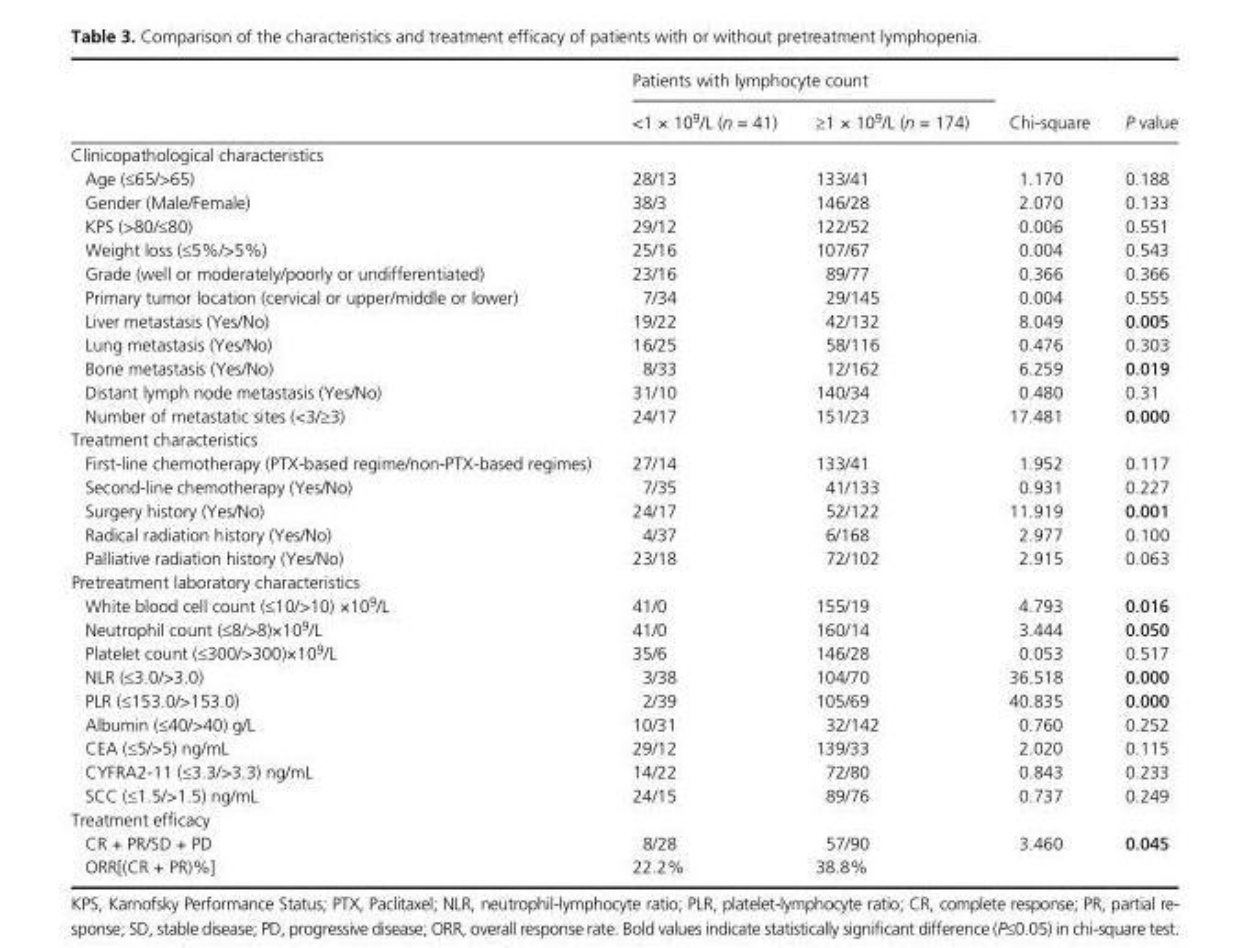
<table><thead><tr><td rowspan="2"></td><td colspan="2">Patients with lymphocyte count</td><td rowspan="2">Chi- square</td><td rowspan="2">P value</td></tr><tr><td>&lt;1 × 10<sup>9</sup>/L (n = 41)</td><td>≥1 × 10<sup>9</sup>/L (n = 174)</td></tr></thead><tbody><tr><td colspan="5">Clinicopathological characteristics</td></tr><tr><td>Age (≤65/&gt;65)</td><td>28/13</td><td>133/41</td><td>1.170</td><td>0.188</td></tr><tr><td>Gender (Male/Female)</td><td>38/3</td><td>146/28</td><td>2.070</td><td>0.133</td></tr><tr><td>KPS (&gt;80/≤80)</td><td>29/12</td><td>122/52</td><td>0.006</td><td>0.551</td></tr><tr><td>Weight loss (≤5%/&gt;5%)</td><td>25/16</td><td>107/67</td><td>0.004</td><td>0.543</td></tr><tr><td>Grade (well or moderately/poorly or undifferentiated)</td><td>23/16</td><td>89/77</td><td>0.366</td><td>0.366</td></tr><tr><td>Primary tumor location (cervical or upper/middle or lower)</td><td>7/34</td><td>29/145</td><td>0.004</td><td>0.555</td></tr><tr><td>Liver metastasis (Yes/No)</td><td>19/22</td><td>42/132</td><td>8.049</td><td>0.005</td></tr><tr><td>Lung metastasis (Yes/No)</td><td>16/25</td><td>58/116</td><td>0.476</td><td>0.303</td></tr><tr><td>Bone metastasis (Yes/No)</td><td>8/33</td><td>12/162</td><td>6.259</td><td>0.019</td></tr><tr><td>Distant lymph node metastasis (Yes/No)</td><td>31/10</td><td>140/34</td><td>0.480</td><td>0.31</td></tr><tr><td>Number of metastatic sites (&lt;3/≥3)</td><td>24/17</td><td>151/23</td><td>17.481</td><td>0.000</td></tr><tr><td colspan="5">Treatment characteristics</td></tr><tr><td>First- line chemotherapy (PTX- based regime/non- PTX- based regimes)</td><td>27/14</td><td>133/41</td><td>1.952</td><td>0.117</td></tr><tr><td>Second- line chemotherapy (Yes/No)</td><td>7/35</td><td>41/133</td><td>0.931</td><td>0.227</td></tr><tr><td>Surgery history (Yes/No)</td><td>24/17</td><td>52/122</td><td>11.919</td><td>0.001</td></tr><tr><td>Radical radiation history (Yes/No)</td><td>4/37</td><td>6/168</td><td>2.977</td><td>0.100</td></tr><tr><td>Palliative radiation history (Yes/No)</td><td>23/18</td><td>72/102</td><td>2.915</td><td>0.063</td></tr><tr><td colspan="5">Pretreatment laboratory characteristics</td></tr><tr><td>White blood cell count (≤10/&gt;10) ×10<sup>9</sup>/L</td><td>41/0</td><td>155/19</td><td>4.793</td><td>0.016</td></tr><tr><td>Neutrophil count (≤8/&gt;8)×10<sup>9</sup>/L</td><td>41/0</td><td>160/14</td><td>3.444</td><td>0.050</td></tr><tr><td>Platelet count (≤300/&gt;300)×10<sup>9</sup>/L</td><td>35/6</td><td>146/28</td><td>0.053</td><td>0.517</td></tr><tr><td>NLR (≤3.0/&gt;3.0)</td><td>3/38</td><td>104/70</td><td>36.518</td><td>0.000</td></tr><tr><td>PLR (≤153.0/&gt;153.0)</td><td>2/39</td><td>105/69</td><td>40.835</td><td>0.000</td></tr><tr><td>Albumin (≤40/&gt;40) g/L</td><td>10/31</td><td>32/142</td><td>0.760</td><td>0.252</td></tr><tr><td>CEA (≤5/&gt;5) ng/mL</td><td>29/12</td><td>139/33</td><td>2.020</td><td>0.115</td></tr><tr><td>CYFRA2- 11 (≤3.3/&gt;3.3) ng/mL</td><td>14/22</td><td>72/80</td><td>0.843</td><td>0.233</td></tr><tr><td>SCC (≤1.5/&gt;1.5) ng/mL</td><td>24/15</td><td>89/76</td><td>0.737</td><td>0.249</td></tr><tr><td colspan="5">Treatment efficacy</td></tr><tr><td>CR + PR/SD + PD</td><td>8/28</td><td>57/90</td><td rowspan="2">3.460</td><td rowspan="2">0.045</td></tr><tr><td>ORR[(CR + PR)%]</td><td>22.2%</td><td>38.8%</td></tr></tbody></table>